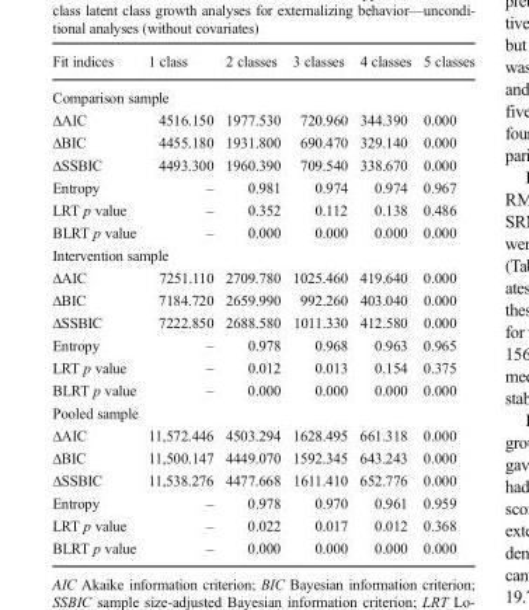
<table><thead><tr><td>Fit indices</td><td>1 class</td><td>2 classes</td><td>3 classes</td><td>4 classes</td><td>5 classes</td></tr></thead><tbody><tr><td colspan="6">Comparison sample</td></tr><tr><td>ΔAIC</td><td>4516.150</td><td>1977.530</td><td>720.960</td><td>344.390</td><td>0.000</td></tr><tr><td>ΔBIC</td><td>4455.180</td><td>1931.800</td><td>690.470</td><td>329.140</td><td>0.000</td></tr><tr><td>ΔSSBIC</td><td>4493.300</td><td>1960.390</td><td>709.540</td><td>338.670</td><td>0.000</td></tr><tr><td>Entropy</td><td>–</td><td>0.981</td><td>0.974</td><td>0.974</td><td>0.967</td></tr><tr><td>LRT p value</td><td>–</td><td>0.352</td><td>0.112</td><td>0.138</td><td>0.486</td></tr><tr><td>BLRT p value</td><td>–</td><td>0.000</td><td>0.000</td><td>0.000</td><td>0.000</td></tr><tr><td colspan="6">Intervention sample</td></tr><tr><td>ΔAIC</td><td>7251.110</td><td>2709.780</td><td>1025.460</td><td>419.640</td><td>0.000</td></tr><tr><td>ΔBIC</td><td>7184.720</td><td>2659.990</td><td>992.260</td><td>403.040</td><td>0.000</td></tr><tr><td>ΔSSBIC</td><td>7222.850</td><td>2688.580</td><td>1011.330</td><td>412.580</td><td>0.000</td></tr><tr><td>Entropy</td><td>–</td><td>0.978</td><td>0.968</td><td>0.963</td><td>0.965</td></tr><tr><td>LRT p value</td><td>–</td><td>0.012</td><td>0.013</td><td>0.154</td><td>0.375</td></tr><tr><td>BLRT p value</td><td>–</td><td>0.000</td><td>0.000</td><td>0.000</td><td>0.000</td></tr><tr><td colspan="6">Pooled sample</td></tr><tr><td>ΔAIC</td><td>11,572.446</td><td>4503.294</td><td>1628.495</td><td>661.318</td><td>0.000</td></tr><tr><td>ΔBIC</td><td>11,500.147</td><td>4449.070</td><td>1592.345</td><td>643.243</td><td>0.000</td></tr><tr><td>ΔSSBIC</td><td>11,538.276</td><td>4477.668</td><td>1611.410</td><td>652.776</td><td>0.000</td></tr><tr><td>Entropy</td><td>–</td><td>0.978</td><td>0.970</td><td>0.961</td><td>0.959</td></tr><tr><td>LRT p value</td><td>–</td><td>0.022</td><td>0.017</td><td>0.012</td><td>0.368</td></tr><tr><td>BLRT p value</td><td>–</td><td>0.000</td><td>0.000</td><td>0.000</td><td>0.000</td></tr></tbody></table>